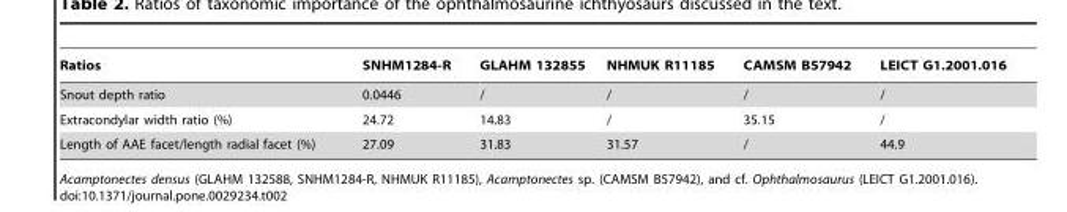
<table><thead><tr><td>Ratios</td><td>SNHM1284-R</td><td>GLAHM 132855</td><td>NHMUK R11185</td><td>CAMSM B57942</td><td>LEICT G1.2001.016</td></tr></thead><tbody><tr><td>Snout depth ratio</td><td>0.0446</td><td>/</td><td>/</td><td>/</td><td>/</td></tr><tr><td>Extracondylar width ratio (%)</td><td>24.72</td><td>14.83</td><td>/</td><td>35.15</td><td>/</td></tr><tr><td>Length of AAE facet/length radial facet (%)</td><td>27.09</td><td>31.83</td><td>31.57</td><td>/</td><td>44.9</td></tr></tbody></table>